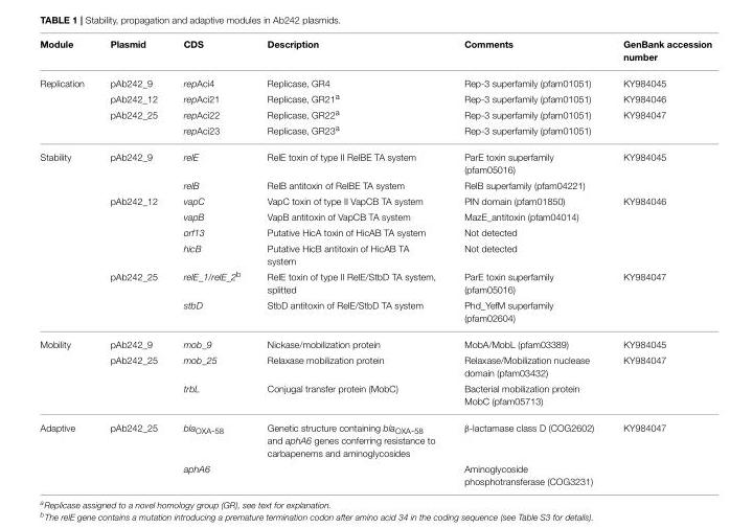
<table><thead><tr><td>Module</td><td>Plasmid</td><td>CDS</td><td>Description</td><td>Comments</td><td>GenBank accession number</td></tr></thead><tbody><tr><td rowspan="4">Replication</td><td>pAb242_9</td><td>repAci4</td><td>Replicase, GR4</td><td>Rep-3 superfamily (pfam01051)</td><td>KY984045</td></tr><tr><td>pAb242_12</td><td>repAci21</td><td>Replicase, GR21<sup>a</sup></td><td>Rep-3 superfamily (pfam01051)</td><td>KY984046</td></tr><tr><td>pAb242_25</td><td>repAci22</td><td>Replicase, GR22<sup>a</sup></td><td>Rep-3 superfamily (pfam01051)</td><td>KY984047</td></tr><tr><td></td><td>repAci23</td><td>Replicase, GR23<sup>a</sup></td><td>Rep-3 superfamily (pfam01051)</td><td></td></tr><tr><td rowspan="8">Stability</td><td>pAb242_9</td><td>relE</td><td>RelE toxin of type II RelBE TA system</td><td>ParE toxin superfamily (pfam05016)</td><td>KY984045</td></tr><tr><td></td><td>relB</td><td>RelB antitoxin of RelBE TA system</td><td>RelB superfamily (pfam04221)</td><td></td></tr><tr><td>pAb242_12</td><td>vapC</td><td>VapC toxin of type II VapCB TA system</td><td>PIN domain (pfam01850)</td><td>KY984046</td></tr><tr><td></td><td>vapB</td><td>VapB antitoxin of VapCB TA system</td><td>MazE_antitoxin (pfam04014)</td><td></td></tr><tr><td></td><td>orf13</td><td>Putative HicA toxin of HicAB TA system</td><td>Not detected</td><td></td></tr><tr><td></td><td>hicB</td><td>Putative HicB antitoxin of HicAB TA system</td><td>Not detected</td><td></td></tr><tr><td>pAb242_25</td><td>relE_1/relE_2<sup>b</sup></td><td>RelE toxin of type II RelE/StbD TA system, splitted</td><td>ParE toxin superfamily (pfam05016)</td><td>KY984047</td></tr><tr><td></td><td>stbD</td><td>StbD antitoxin of RelE/StbD TA system</td><td>Phd_YefM superfamily (pfam02604)</td><td></td></tr><tr><td rowspan="3">Mobility</td><td>pAb242_9</td><td>mob_9</td><td>Nickase/mobilization protein</td><td>MobA/MobL (pfam03389)</td><td>KY984045</td></tr><tr><td>pAb242_25</td><td>mob_25</td><td>Relaxase mobilization protein</td><td>Relaxase/Mobilization nuclease domain (pfam03432)</td><td>KY984047</td></tr><tr><td></td><td>trbL</td><td>Conjugal transfer protein (MobC)</td><td>Bacterial mobilization protein MobC (pfam05713)</td><td></td></tr><tr><td rowspan="2">Adaptive</td><td>pAb242_25</td><td>bla<sub>OXA-58</sub></td><td>Genetic structure containing bla<sub>OXA-58</sub> and aphA6 genes conferring resistance to carbapenems and aminoglycosides</td><td>β-lactamase class D (COG2602)</td><td>KY984047</td></tr><tr><td></td><td>aphA6</td><td></td><td>Aminoglycoside phosphotransferase (COG3231)</td><td></td></tr></tbody></table>